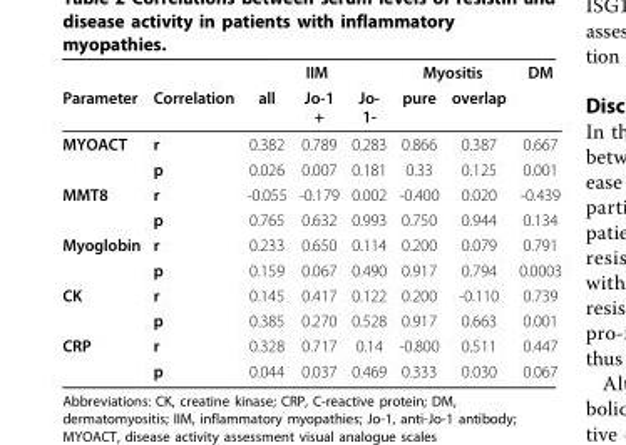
<table><thead><tr><td rowspan="2">Parameter</td><td rowspan="2">Correlation</td><td colspan="3">IIM</td><td colspan="2">Myositis</td><td rowspan="2">DM</td></tr><tr><td>all</td><td>Jo-1 +</td><td>Jo- 1-</td><td>pure</td><td>overlap</td></tr></thead><tbody><tr><td rowspan="2">MYOACT</td><td>r</td><td>0.382</td><td>0.789</td><td>0.283</td><td>0.866</td><td>0.387</td><td>0.667</td></tr><tr><td>p</td><td>0.026</td><td>0.007</td><td>0.181</td><td>0.33</td><td>0.125</td><td>0.001</td></tr><tr><td rowspan="2">MMT8</td><td>r</td><td>-0.055</td><td>-0.179</td><td>0.002</td><td>-0.400</td><td>0.020</td><td>-0.439</td></tr><tr><td>p</td><td>0.765</td><td>0.632</td><td>0.993</td><td>0.750</td><td>0.944</td><td>0.134</td></tr><tr><td rowspan="2">Myoglobin</td><td>r</td><td>0.233</td><td>0.650</td><td>0.114</td><td>0.200</td><td>0.079</td><td>0.791</td></tr><tr><td>p</td><td>0.159</td><td>0.067</td><td>0.490</td><td>0.917</td><td>0.794</td><td>0.0003</td></tr><tr><td rowspan="2">CK</td><td>r</td><td>0.145</td><td>0.417</td><td>0.122</td><td>0.200</td><td>-0.110</td><td>0.739</td></tr><tr><td>p</td><td>0.385</td><td>0.270</td><td>0.528</td><td>0.917</td><td>0.663</td><td>0.001</td></tr><tr><td rowspan="2">CRP</td><td>r</td><td>0.328</td><td>0.717</td><td>0.14</td><td>-0.800</td><td>0.511</td><td>0.447</td></tr><tr><td>p</td><td>0.044</td><td>0.037</td><td>0.469</td><td>0.333</td><td>0.030</td><td>0.067</td></tr></tbody></table>